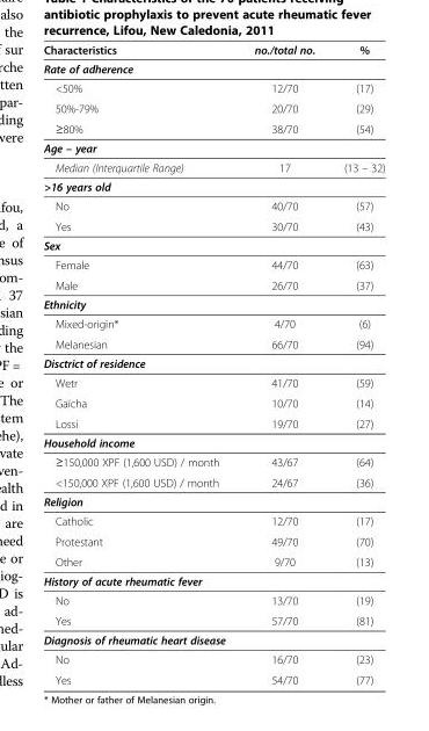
<table><thead><tr><td>Characteristics</td><td>no./total no.</td><td>%</td></tr></thead><tbody><tr><td colspan="3">Rate of adherence</td></tr><tr><td>&lt;50%</td><td>12/70</td><td>(17)</td></tr><tr><td>50%-79%</td><td>20/70</td><td>(29)</td></tr><tr><td>≥80%</td><td>38/70</td><td>(54)</td></tr><tr><td colspan="3">Age – year</td></tr><tr><td>Median (Interquartile Range)</td><td>17</td><td>(13 – 32)</td></tr><tr><td colspan="3">&gt;16 years old</td></tr><tr><td>No</td><td>40/70</td><td>(57)</td></tr><tr><td>Yes</td><td>30/70</td><td>(43)</td></tr><tr><td colspan="3">Sex</td></tr><tr><td>Female</td><td>44/70</td><td>(63)</td></tr><tr><td>Male</td><td>26/70</td><td>(37)</td></tr><tr><td colspan="3">Ethnicity</td></tr><tr><td>Mixed-origin*</td><td>4/70</td><td>(6)</td></tr><tr><td>Melanesian</td><td>66/70</td><td>(94)</td></tr><tr><td colspan="3">Disctrict of residence</td></tr><tr><td>Wetr</td><td>41/70</td><td>(59)</td></tr><tr><td>Gaïcha</td><td>10/70</td><td>(14)</td></tr><tr><td>Lossi</td><td>19/70</td><td>(27)</td></tr><tr><td colspan="3">Household income</td></tr><tr><td>≥150,000 XPF (1,600 USD) / month</td><td>43/67</td><td>(64)</td></tr><tr><td>&lt;150,000 XPF (1,600 USD) / month</td><td>24/67</td><td>(36)</td></tr><tr><td colspan="3">Religion</td></tr><tr><td>Catholic</td><td>12/70</td><td>(17)</td></tr><tr><td>Protestant</td><td>49/70</td><td>(70)</td></tr><tr><td>Other</td><td>9/70</td><td>(13)</td></tr><tr><td colspan="3">History of acute rheumatic fever</td></tr><tr><td>No</td><td>13/70</td><td>(19)</td></tr><tr><td>Yes</td><td>57/70</td><td>(81)</td></tr><tr><td colspan="3">Diagnosis of rheumatic heart disease</td></tr><tr><td>No</td><td>16/70</td><td>(23)</td></tr><tr><td>Yes</td><td>54/70</td><td>(77)</td></tr></tbody></table>